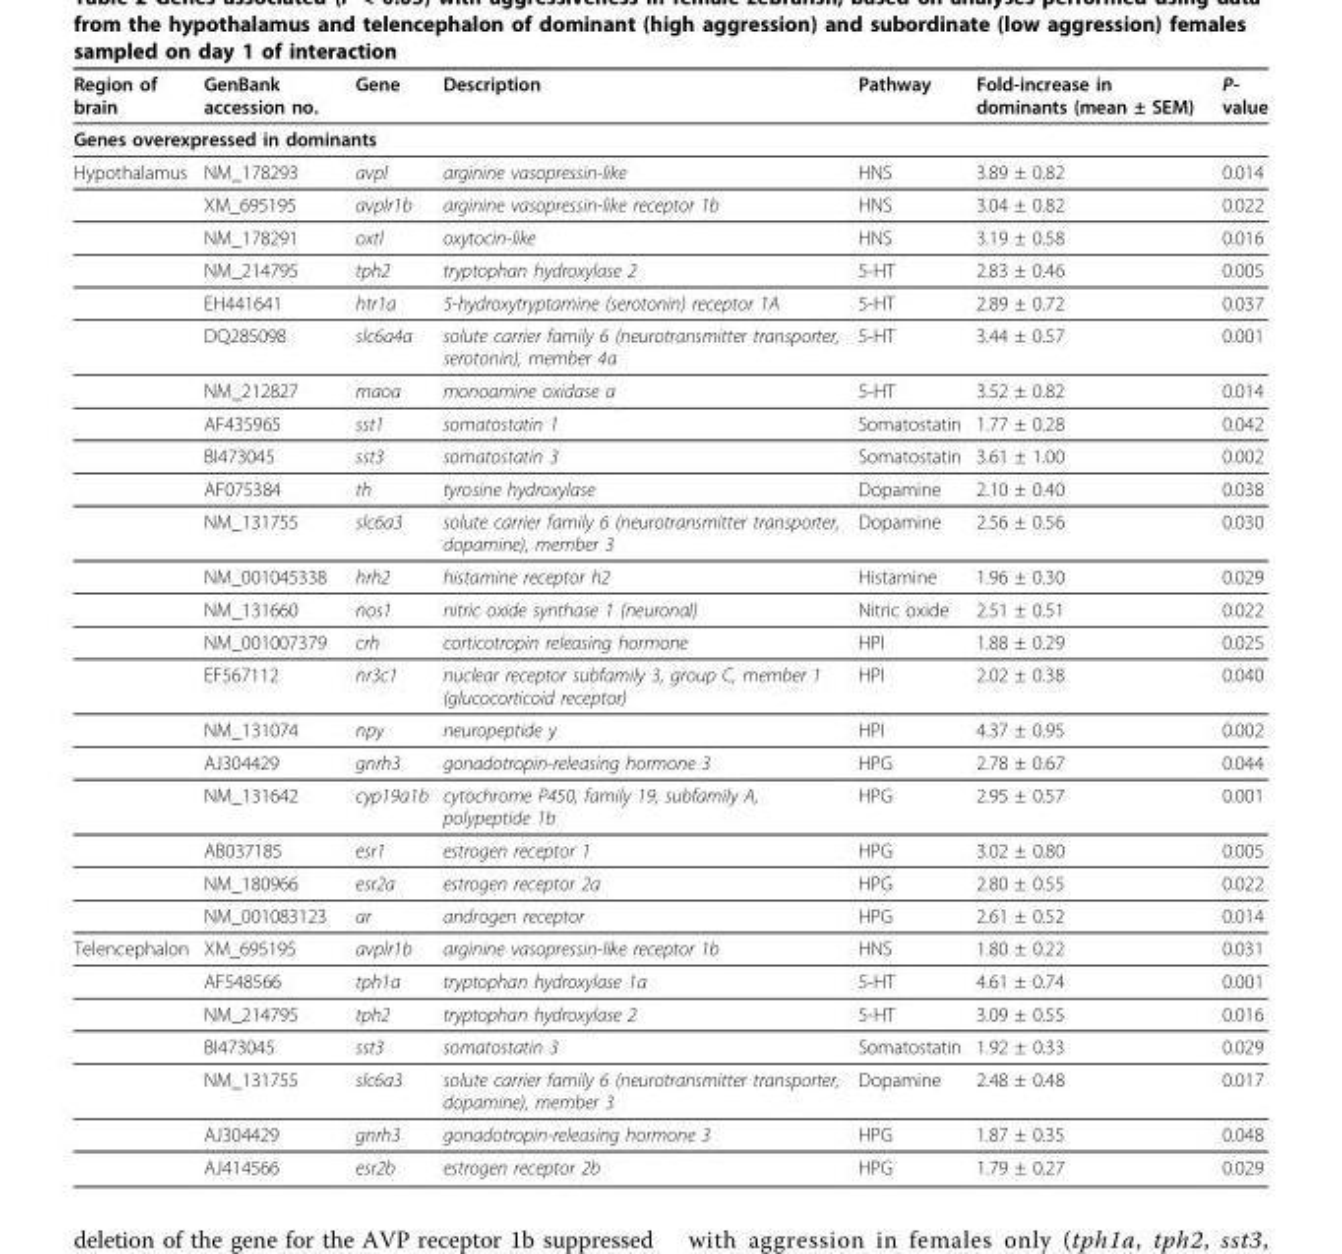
<table><thead><tr><td>Region of brain</td><td>GenBank accession no.</td><td>Gene</td><td>Description</td><td>Pathway</td><td>Fold-increase in dominants (mean ± SEM)</td><td>P- value</td></tr></thead><tbody><tr><td colspan="7">Genes overexpressed in dominants</td></tr><tr><td rowspan="21">Hypothalamus</td><td>NM_178293</td><td>avpl</td><td>arginine vasopressin-like</td><td>HNS</td><td>3.89 ± 0.82</td><td>0.014</td></tr><tr><td>XM_695195</td><td>avplr1b</td><td>arginine vasopressin-like receptor 1b</td><td>HNS</td><td>3.04 ± 0.82</td><td>0.022</td></tr><tr><td>NM_178291</td><td>oxtl</td><td>oxytocin-like</td><td>HNS</td><td>3.19 ± 0.58</td><td>0.016</td></tr><tr><td>NM_214795</td><td>tph2</td><td>tryptophan hydroxylase 2</td><td>5-HT</td><td>2.83 ± 0.46</td><td>0.005</td></tr><tr><td>EH441641</td><td>htr1a</td><td>5-hydroxytryptamine (serotonin) receptor 1A</td><td>5-HT</td><td>2.89 ± 0.72</td><td>0.037</td></tr><tr><td>DQ285098</td><td>slc6a4a</td><td>solute carrier family 6 (neurotransmitter transporter, serotonin), member 4a</td><td>5-HT</td><td>3.44 ± 0.57</td><td>0.001</td></tr><tr><td>NM_212827</td><td>maoa</td><td>monoamine oxidase a</td><td>5-HT</td><td>3.52 ± 0.82</td><td>0.014</td></tr><tr><td>AF435965</td><td>sst1</td><td>somatostatin 1</td><td>Somatostatin</td><td>1.77 ± 0.28</td><td>0.042</td></tr><tr><td>BI473045</td><td>sst3</td><td>somatostatin 3</td><td>Somatostatin</td><td>3.61 ± 1.00</td><td>0.002</td></tr><tr><td>AF075384</td><td>th</td><td>tyrosine hydroxylase</td><td>Dopamine</td><td>2.10 ± 0.40</td><td>0.038</td></tr><tr><td>NM_131755</td><td>slc6a3</td><td>solute carrier family 6 (neurotransmitter transporter, dopamine), member 3</td><td>Dopamine</td><td>2.56 ± 0.56</td><td>0.030</td></tr><tr><td>NM_001045338</td><td>hrh2</td><td>histamine receptor h2</td><td>Histamine</td><td>1.96 ± 0.30</td><td>0.029</td></tr><tr><td>NM_131660</td><td>nos1</td><td>nitric oxide synthase 1 (neuronal)</td><td>Nitric oxide</td><td>2.51 ± 0.51</td><td>0.022</td></tr><tr><td>NM_001007379</td><td>crh</td><td>corticotropin releasing hormone</td><td>HPI</td><td>1.88 ± 0.29</td><td>0.025</td></tr><tr><td>EF567112</td><td>nr3c1</td><td>nuclear receptor subfamily 3, group C, member 1 (glucocorticoid receptor)</td><td>HPI</td><td>2.02 ± 0.38</td><td>0.040</td></tr><tr><td>NM_131074</td><td>npy</td><td>neuropeptide y</td><td>HPI</td><td>4.37 ± 0.95</td><td>0.002</td></tr><tr><td>AJ304429</td><td>gnrh3</td><td>gonadotropin-releasing hormone 3</td><td>HPG</td><td>2.78 ± 0.67</td><td>0.044</td></tr><tr><td>NM_131642</td><td>cyp19a1b</td><td>cytochrome P450, family 19, subfamily A, polypeptide 1b</td><td>HPG</td><td>2.95 ± 0.57</td><td>0.001</td></tr><tr><td>AB037185</td><td>esr1</td><td>estrogen receptor 1</td><td>HPG</td><td>3.02 ± 0.80</td><td>0.005</td></tr><tr><td>NM_180966</td><td>esr2a</td><td>estrogen receptor 2a</td><td>HPG</td><td>2.80 ± 0.55</td><td>0.022</td></tr><tr><td>NM_001083123</td><td>ar</td><td>androgen receptor</td><td>HPG</td><td>2.61 ± 0.52</td><td>0.014</td></tr><tr><td rowspan="7">Telencephalon</td><td>XM_695195</td><td>avplr1b</td><td>arginine vasopressin-like receptor 1b</td><td>HNS</td><td>1.80 ± 0.22</td><td>0.031</td></tr><tr><td>AF548566</td><td>tph1a</td><td>tryptophan hydroxylase 1a</td><td>5-HT</td><td>4.61 ± 0.74</td><td>0.001</td></tr><tr><td>NM_214795</td><td>tph2</td><td>tryptophan hydroxylase 2</td><td>5-HT</td><td>3.09 ± 0.55</td><td>0.016</td></tr><tr><td>BI473045</td><td>sst3</td><td>somatostatin 3</td><td>Somatostatin</td><td>1.92 ± 0.33</td><td>0.029</td></tr><tr><td>NM_131755</td><td>slc6a3</td><td>solute carrier family 6 (neurotransmitter transporter, dopamine), member 3</td><td>Dopamine</td><td>2.48 ± 0.48</td><td>0.017</td></tr><tr><td>AJ304429</td><td>gnrh3</td><td>gonadotropin-releasing hormone 3</td><td>HPG</td><td>1.87 ± 0.35</td><td>0.048</td></tr><tr><td>AJ414566</td><td>esr2b</td><td>estrogen receptor 2b</td><td>HPG</td><td>1.79 ± 0.27</td><td>0.029</td></tr></tbody></table>